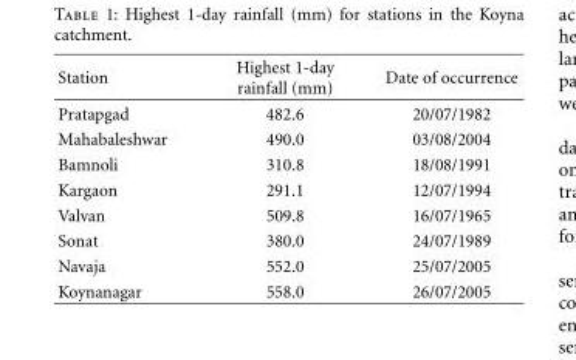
<table><thead><tr><td>Station</td><td>Highest 1-day rainfall (mm)</td><td>Date of occurrence</td></tr></thead><tbody><tr><td>Pratapgad</td><td>482.6</td><td>20/07/1982</td></tr><tr><td>Mahabaleshwar</td><td>490.0</td><td>03/08/2004</td></tr><tr><td>Bamnoli</td><td>310.8</td><td>18/08/1991</td></tr><tr><td>Kargaon</td><td>291.1</td><td>12/07/1994</td></tr><tr><td>Valvan</td><td>509.8</td><td>16/07/1965</td></tr><tr><td>Sonat</td><td>380.0</td><td>24/07/1989</td></tr><tr><td>Navaja</td><td>552.0</td><td>25/07/2005</td></tr><tr><td>Koynanagar</td><td>558.0</td><td>26/07/2005</td></tr></tbody></table>